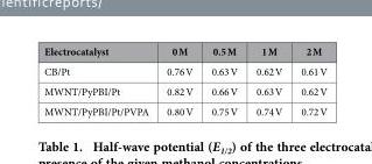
<table><thead><tr><td>Electrocatalyst</td><td>0 M</td><td>0.5 M</td><td>1 M</td><td>2 M</td></tr></thead><tbody><tr><td>CB/Pt</td><td>0.76 V</td><td>0.63 V</td><td>0.62 V</td><td>0.61 V</td></tr><tr><td>MWNT/PyPBI/Pt</td><td>0.82 V</td><td>0.66 V</td><td>0.63 V</td><td>0.62 V</td></tr><tr><td>MWNT/PyPBI/Pt/PVPA</td><td>0.80 V</td><td>0.75 V</td><td>0.74 V</td><td>0.72 V</td></tr></tbody></table>